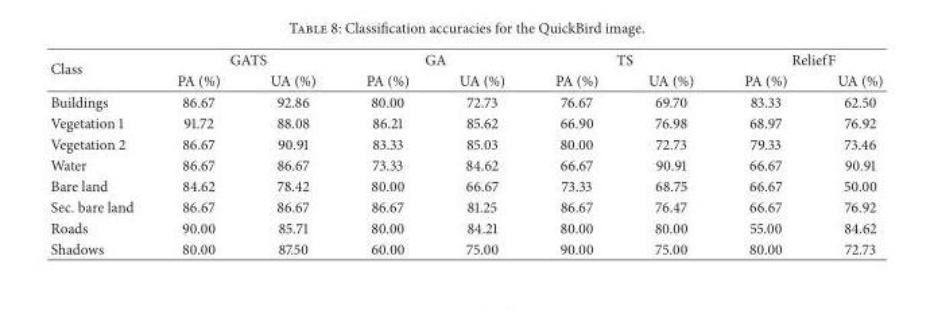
<table><thead><tr><td rowspan="2">Class</td><td colspan="2">GATS</td><td colspan="2">GA</td><td colspan="2">TS</td><td colspan="2">ReliefF</td></tr><tr><td>PA (%)</td><td>UA (%)</td><td>PA (%)</td><td>UA (%)</td><td>PA (%)</td><td>UA (%)</td><td>PA (%)</td><td>UA (%)</td></tr></thead><tbody><tr><td>Buildings</td><td>86.67</td><td>92.86</td><td>80.00</td><td>72.73</td><td>76.67</td><td>69.70</td><td>83.33</td><td>62.50</td></tr><tr><td>Vegetation 1</td><td>91.72</td><td>88.08</td><td>86.21</td><td>85.62</td><td>66.90</td><td>76.98</td><td>68.97</td><td>76.92</td></tr><tr><td>Vegetation 2</td><td>86.67</td><td>90.91</td><td>83.33</td><td>85.03</td><td>80.00</td><td>72.73</td><td>79.33</td><td>73.46</td></tr><tr><td>Water</td><td>86.67</td><td>86.67</td><td>73.33</td><td>84.62</td><td>66.67</td><td>90.91</td><td>66.67</td><td>90.91</td></tr><tr><td>Bare land</td><td>84.62</td><td>78.42</td><td>80.00</td><td>66.67</td><td>73.33</td><td>68.75</td><td>66.67</td><td>50.00</td></tr><tr><td>Sec. bare land</td><td>86.67</td><td>86.67</td><td>86.67</td><td>81.25</td><td>86.67</td><td>76.47</td><td>66.67</td><td>76.92</td></tr><tr><td>Roads</td><td>90.00</td><td>85.71</td><td>80.00</td><td>84.21</td><td>80.00</td><td>80.00</td><td>55.00</td><td>84.62</td></tr><tr><td>Shadows</td><td>80.00</td><td>87.50</td><td>60.00</td><td>75.00</td><td>90.00</td><td>75.00</td><td>80.00</td><td>72.73</td></tr></tbody></table>